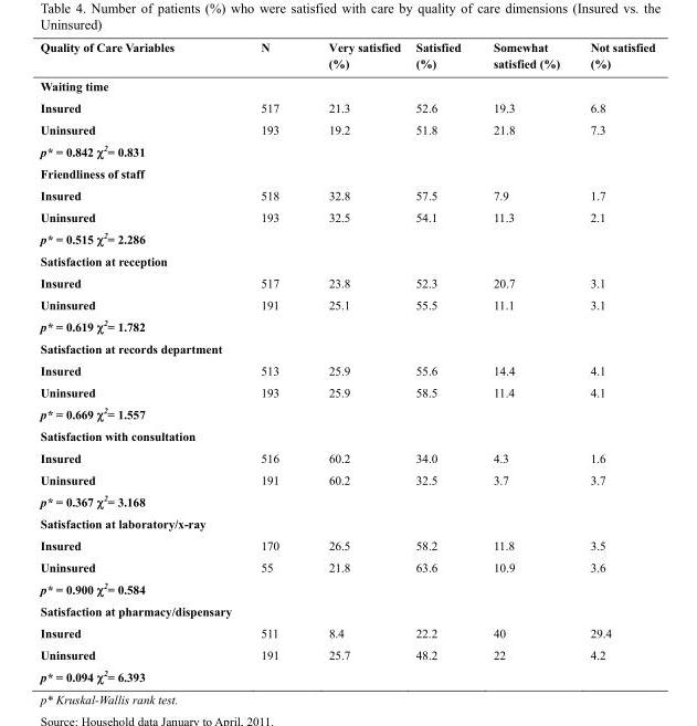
<table><thead><tr><td>Quality of Care Variables</td><td>N</td><td>Very satisfied (%)</td><td>Satisfied (%)</td><td>Somewhat satisfied (%)</td><td>Not satisfied (%)</td></tr></thead><tbody><tr><td colspan="6">Waiting time</td></tr><tr><td>Insured</td><td>517</td><td>21.3</td><td>52.6</td><td>19.3</td><td>6.8</td></tr><tr><td>Uninsured</td><td>193</td><td>19.2</td><td>51.8</td><td>21.8</td><td>7.3</td></tr><tr><td colspan="6">p* = 0.842 χ<sup>2</sup>= 0.831</td></tr><tr><td colspan="6">Friendliness of staff</td></tr><tr><td>Insured</td><td>518</td><td>32.8</td><td>57.5</td><td>7.9</td><td>1.7</td></tr><tr><td>Uninsured</td><td>193</td><td>32.5</td><td>54.1</td><td>11.3</td><td>2.1</td></tr><tr><td colspan="6">p* = 0.515 χ<sup>2</sup>= 2.286</td></tr><tr><td colspan="6">Satisfaction at reception</td></tr><tr><td>Insured</td><td>517</td><td>23.8</td><td>52.3</td><td>20.7</td><td>3.1</td></tr><tr><td>Uninsured</td><td>191</td><td>25.1</td><td>55.5</td><td>11.1</td><td>3.1</td></tr><tr><td colspan="6">p* = 0.619 χ<sup>2</sup>= 1.782</td></tr><tr><td colspan="6">Satisfaction at records department</td></tr><tr><td>Insured</td><td>513</td><td>25.9</td><td>55.6</td><td>14.4</td><td>4.1</td></tr><tr><td>Uninsured</td><td>193</td><td>25.9</td><td>58.5</td><td>11.4</td><td>4.1</td></tr><tr><td colspan="6">p* = 0.669 χ<sup>2</sup>= 1.557</td></tr><tr><td colspan="6">Satisfaction with consultation</td></tr><tr><td>Insured</td><td>516</td><td>60.2</td><td>34.0</td><td>4.3</td><td>1.6</td></tr><tr><td>Uninsured</td><td>191</td><td>60.2</td><td>32.5</td><td>3.7</td><td>3.7</td></tr><tr><td colspan="6">p* = 0.367 χ<sup>2</sup>= 3.168</td></tr><tr><td colspan="6">Satisfaction at laboratory/x-ray</td></tr><tr><td>Insured</td><td>170</td><td>26.5</td><td>58.2</td><td>11.8</td><td>3.5</td></tr><tr><td>Uninsured</td><td>55</td><td>21.8</td><td>63.6</td><td>10.9</td><td>3.6</td></tr><tr><td colspan="6">p* = 0.900 χ<sup>2</sup>= 0.584</td></tr><tr><td colspan="6">Satisfaction at pharmacy/dispensary</td></tr><tr><td>Insured</td><td>511</td><td>8.4</td><td>22.2</td><td>40</td><td>29.4</td></tr><tr><td>Uninsured</td><td>191</td><td>25.7</td><td>48.2</td><td>22</td><td>4.2</td></tr><tr><td>p* = 0.094 χ<sup>2</sup>= 6.393</td><td></td><td></td><td></td><td></td><td></td></tr></tbody></table>